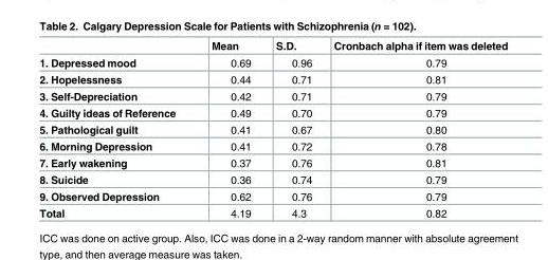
<table><thead><tr><td></td><td>Mean</td><td>S.D.</td><td>Cronbach alpha if item was deleted</td></tr></thead><tbody><tr><td>1. Depressed mood</td><td>0.69</td><td>0.96</td><td>0.79</td></tr><tr><td>2. Hopelessness</td><td>0.44</td><td>0.71</td><td>0.81</td></tr><tr><td>3. Self-Depreciation</td><td>0.42</td><td>0.71</td><td>0.79</td></tr><tr><td>4. Guilty ideas of Reference</td><td>0.49</td><td>0.70</td><td>0.79</td></tr><tr><td>5. Pathological guilt</td><td>0.41</td><td>0.67</td><td>0.80</td></tr><tr><td>6. Morning Depression</td><td>0.41</td><td>0.72</td><td>0.78</td></tr><tr><td>7. Early wakening</td><td>0.37</td><td>0.76</td><td>0.81</td></tr><tr><td>8. Suicide</td><td>0.36</td><td>0.74</td><td>0.79</td></tr><tr><td>9. Observed Depression</td><td>0.62</td><td>0.76</td><td>0.79</td></tr><tr><td>Total</td><td>4.19</td><td>4.3</td><td>0.82</td></tr></tbody></table>